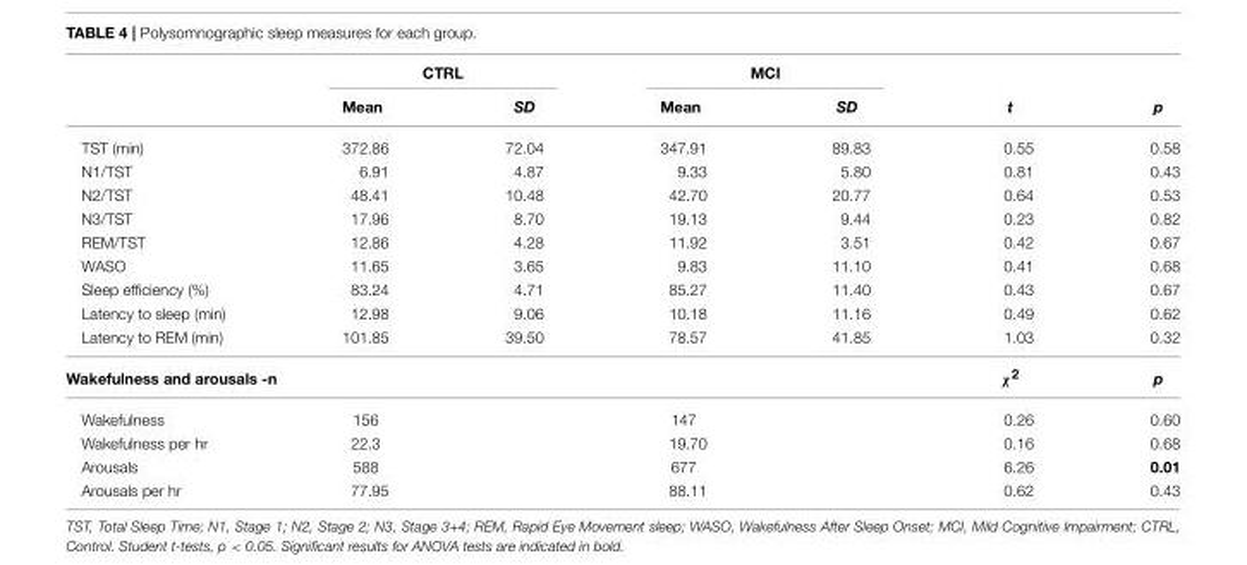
<table><thead><tr><td rowspan="2"></td><td colspan="2">CTRL</td><td colspan="2">MCI</td><td rowspan="2">t</td><td rowspan="2">p</td></tr><tr><td>Mean</td><td>SD</td><td>Mean</td><td>SD</td></tr></thead><tbody><tr><td>TST (min)</td><td>372.86</td><td>72.04</td><td>347.91</td><td>89.83</td><td>0.55</td><td>0.58</td></tr><tr><td>N1/TST</td><td>6.91</td><td>4.87</td><td>9.33</td><td>5.80</td><td>0.81</td><td>0.43</td></tr><tr><td>N2/TST</td><td>48.41</td><td>10.48</td><td>42.70</td><td>20.77</td><td>0.64</td><td>0.53</td></tr><tr><td>N3/TST</td><td>17.96</td><td>8.70</td><td>19.13</td><td>9.44</td><td>0.23</td><td>0.82</td></tr><tr><td>REM/TST</td><td>12.86</td><td>4.28</td><td>11.92</td><td>3.51</td><td>0.42</td><td>0.67</td></tr><tr><td>WASO</td><td>11.65</td><td>3.65</td><td>9.83</td><td>11.10</td><td>0.41</td><td>0.68</td></tr><tr><td>Sleep efficiency (%)</td><td>83.24</td><td>4.71</td><td>85.27</td><td>11.40</td><td>0.43</td><td>0.67</td></tr><tr><td>Latency to sleep (min)</td><td>12.98</td><td>9.06</td><td>10.18</td><td>11.16</td><td>0.49</td><td>0.62</td></tr><tr><td>Latency to REM (min)</td><td>101.85</td><td>39.50</td><td>78.57</td><td>41.85</td><td>1.03</td><td>0.32</td></tr><tr><td colspan="2">Wakefulness and arousals -n</td><td></td><td></td><td></td><td>χ<sup>2</sup></td><td>p</td></tr><tr><td>Wakefulness</td><td>156</td><td></td><td>147</td><td></td><td>0.26</td><td>0.60</td></tr><tr><td>Wakefulness per hr</td><td>22.3</td><td></td><td>19.70</td><td></td><td>0.16</td><td>0.68</td></tr><tr><td>Arousals</td><td>588</td><td></td><td>677</td><td></td><td>6.26</td><td>0.01</td></tr><tr><td>Arousals per hr</td><td>77.95</td><td></td><td>88.11</td><td></td><td>0.62</td><td>0.43</td></tr></tbody></table>